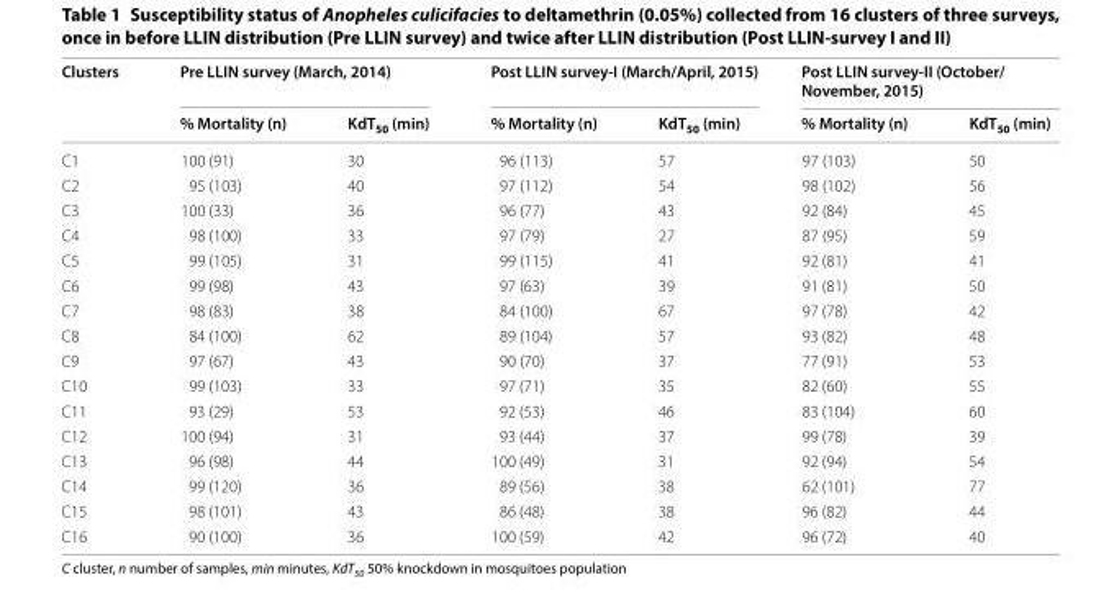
<table><thead><tr><td rowspan="2">Clusters</td><td colspan="2">Pre LLIN survey (March, 2014)</td><td colspan="2">Post LLIN survey‑I (March/April, 2015)</td><td colspan="2">Post LLIN survey‑II (October/ November, 2015)</td></tr><tr><td>% Mortality (n)</td><td>KdT<sub>50</sub> (min)</td><td>% Mortality (n)</td><td>KdT<sub>50</sub> (min)</td><td>% Mortality (n)</td><td>KdT<sub>50</sub> (min)</td></tr></thead><tbody><tr><td>C1</td><td>100 (91)</td><td>30</td><td>96 (113)</td><td>57</td><td>97 (103)</td><td>50</td></tr><tr><td>C2</td><td>95 (103)</td><td>40</td><td>97 (112)</td><td>54</td><td>98 (102)</td><td>56</td></tr><tr><td>C3</td><td>100 (33)</td><td>36</td><td>96 (77)</td><td>43</td><td>92 (84)</td><td>45</td></tr><tr><td>C4</td><td>98 (100)</td><td>33</td><td>97 (79)</td><td>27</td><td>87 (95)</td><td>59</td></tr><tr><td>C5</td><td>99 (105)</td><td>31</td><td>99 (115)</td><td>41</td><td>92 (81)</td><td>41</td></tr><tr><td>C6</td><td>99 (98)</td><td>43</td><td>97 (63)</td><td>39</td><td>91 (81)</td><td>50</td></tr><tr><td>C7</td><td>98 (83)</td><td>38</td><td>84 (100)</td><td>67</td><td>97 (78)</td><td>42</td></tr><tr><td>C8</td><td>84 (100)</td><td>62</td><td>89 (104)</td><td>57</td><td>93 (82)</td><td>48</td></tr><tr><td>C9</td><td>97 (67)</td><td>43</td><td>90 (70)</td><td>37</td><td>77 (91)</td><td>53</td></tr><tr><td>C10</td><td>99 (103)</td><td>33</td><td>97 (71)</td><td>35</td><td>82 (60)</td><td>55</td></tr><tr><td>C11</td><td>93 (29)</td><td>53</td><td>92 (53)</td><td>46</td><td>83 (104)</td><td>60</td></tr><tr><td>C12</td><td>100 (94)</td><td>31</td><td>93 (44)</td><td>37</td><td>99 (78)</td><td>39</td></tr><tr><td>C13</td><td>96 (98)</td><td>44</td><td>100 (49)</td><td>31</td><td>92 (94)</td><td>54</td></tr><tr><td>C14</td><td>99 (120)</td><td>36</td><td>89 (56)</td><td>38</td><td>62 (101)</td><td>77</td></tr><tr><td>C15</td><td>98 (101)</td><td>43</td><td>86 (48)</td><td>38</td><td>96 (82)</td><td>44</td></tr><tr><td>C16</td><td>90 (100)</td><td>36</td><td>100 (59)</td><td>42</td><td>96 (72)</td><td>40</td></tr></tbody></table>